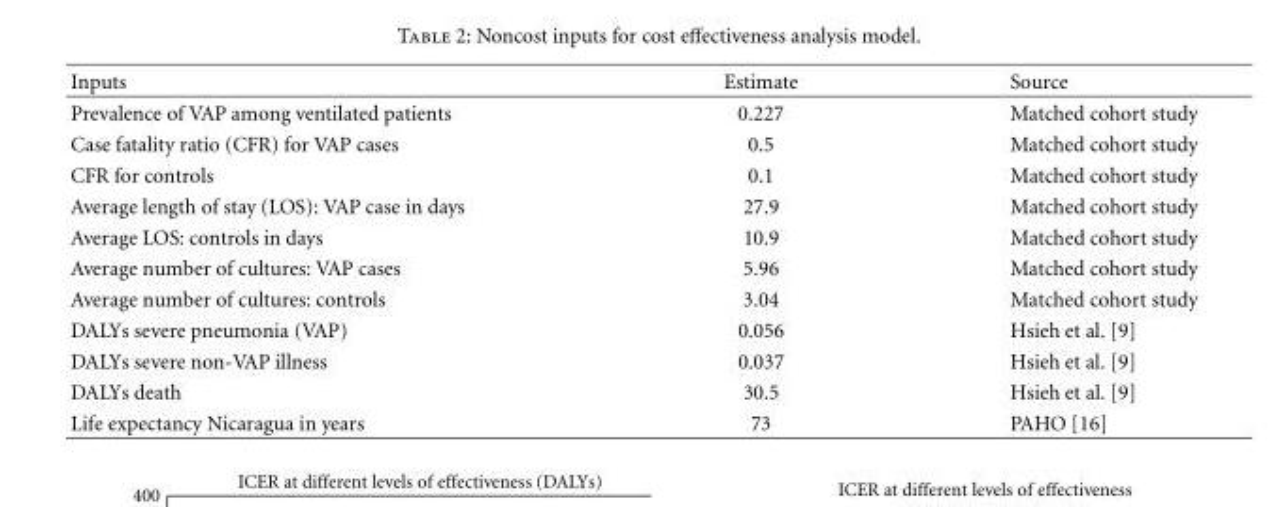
<table><thead><tr><td>Inputs</td><td>Estimate</td><td>Source</td></tr></thead><tbody><tr><td>Prevalence of VAP among ventilated patients</td><td>0.227</td><td>Matched cohort study</td></tr><tr><td>Case fatality ratio (CFR) for VAP cases</td><td>0.5</td><td>Matched cohort study</td></tr><tr><td>CFR for controls</td><td>0.1</td><td>Matched cohort study</td></tr><tr><td>Average length of stay (LOS): VAP case in days</td><td>27.9</td><td>Matched cohort study</td></tr><tr><td>Average LOS: controls in days</td><td>10.9</td><td>Matched cohort study</td></tr><tr><td>Average number of cultures: VAP cases</td><td>5.96</td><td>Matched cohort study</td></tr><tr><td>Average number of cultures: controls</td><td>3.04</td><td>Matched cohort study</td></tr><tr><td>DALYs severe pneumonia (VAP)</td><td>0.056</td><td>Hsieh et al. [9]</td></tr><tr><td>DALYs severe non-VAP illness</td><td>0.037</td><td>Hsieh et al. [9]</td></tr><tr><td>DALYs death</td><td>30.5</td><td>Hsieh et al. [9]</td></tr><tr><td>Life expectancy Nicaragua in years</td><td>73</td><td>PAHO [16]</td></tr></tbody></table>